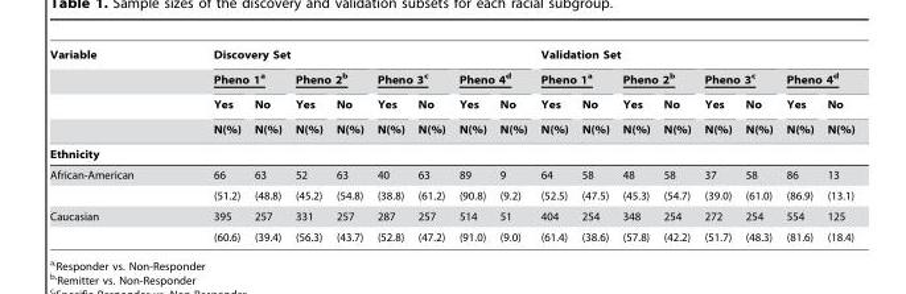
<table><thead><tr><td rowspan="4">Variable</td><td colspan="8">Discovery Set</td><td colspan="8">Validation Set</td></tr><tr><td colspan="2">Pheno 1a</td><td colspan="2">Pheno 2b</td><td colspan="2">Pheno 3c</td><td colspan="2">Pheno 4d</td><td colspan="2">Pheno 1a</td><td colspan="2">Pheno 2b</td><td colspan="2">Pheno 3c</td><td colspan="2">Pheno 4d</td></tr><tr><td rowspan="2">Yes N(%)</td><td rowspan="2">No N(%)</td><td rowspan="2">Yes N(%)</td><td rowspan="2">No N(%)</td><td rowspan="2">Yes N(%)</td><td rowspan="2">No N(%)</td><td rowspan="2">Yes N(%)</td><td rowspan="2">No N(%)</td><td rowspan="2">Yes N(%)</td><td rowspan="2">No N(%)</td><td rowspan="2">Yes N(%)</td><td rowspan="2">No N(%)</td><td rowspan="2">Yes N(%)</td><td rowspan="2">No N(%)</td><td rowspan="2">Yes N(%)</td><td rowspan="2">No N(%)</td></tr><tr></tr></thead><tbody><tr><td colspan="17">Ethnicity</td></tr><tr><td rowspan="2">African-American</td><td>66</td><td>63</td><td>52</td><td>63</td><td>40</td><td>63</td><td>89</td><td>9</td><td>64</td><td>58</td><td>48</td><td>58</td><td>37</td><td>58</td><td>86</td><td>13</td></tr><tr><td>(51.2)</td><td>(48.8)</td><td>(45.2)</td><td>(54.8)</td><td>(38.8)</td><td>(61.2)</td><td>(90.8)</td><td>(9.2)</td><td>(52.5)</td><td>(47.5)</td><td>(45.3)</td><td>(54.7)</td><td>(39.0)</td><td>(61.0)</td><td>(86.9)</td><td>(13.1)</td></tr><tr><td rowspan="2">Caucasian</td><td>395</td><td>257</td><td>331</td><td>257</td><td>287</td><td>257</td><td>514</td><td>51</td><td>404</td><td>254</td><td>348</td><td>254</td><td>272</td><td>254</td><td>554</td><td>125</td></tr><tr><td>(60.6)</td><td>(39.4)</td><td>(56.3)</td><td>(43.7)</td><td>(52.8)</td><td>(47.2)</td><td>(91.0)</td><td>(9.0)</td><td>(61.4)</td><td>(38.6)</td><td>(57.8)</td><td>(42.2)</td><td>(51.7)</td><td>(48.3)</td><td>(81.6)</td><td>(18.4)</td></tr></tbody></table>